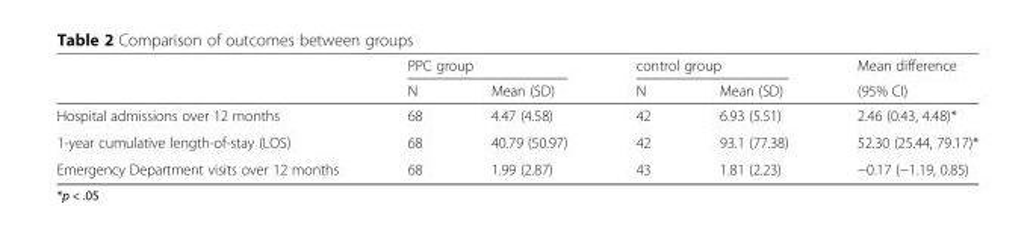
<table><thead><tr><td rowspan="2"></td><td colspan="2">PPC group</td><td colspan="2">control group</td><td rowspan="2">Mean difference (95% CI)</td></tr><tr><td>N</td><td>Mean (SD)</td><td>N</td><td>Mean (SD)</td></tr></thead><tbody><tr><td>Hospital admissions over 12 months</td><td>68</td><td>4.47 (4.58)</td><td>42</td><td>6.93 (5.51)</td><td>2.46 (0.43, 4.48)*</td></tr><tr><td>1-year cumulative length-of-stay (LOS)</td><td>68</td><td>40.79 (50.97)</td><td>42</td><td>93.1 (77.38)</td><td>52.30 (25.44, 79.17)*</td></tr><tr><td>Emergency Department visits over 12 months</td><td>68</td><td>1.99 (2.87)</td><td>43</td><td>1.81 (2.23)</td><td>−0.17 (−1.19, 0.85)</td></tr></tbody></table>